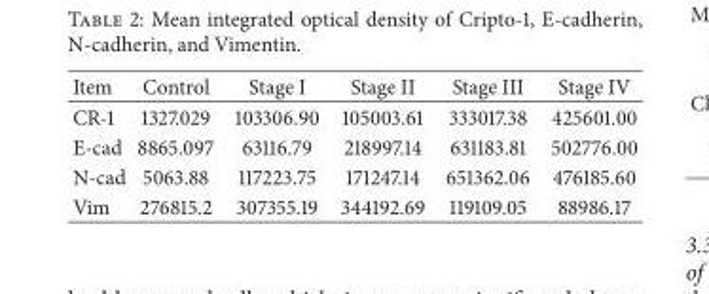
<table><thead><tr><td>Item</td><td>Control</td><td>Stage I</td><td>Stage II</td><td>Stage III</td><td>Stage IV</td></tr></thead><tbody><tr><td>CR-1</td><td>1327.029</td><td>103306.90</td><td>105003.61</td><td>333017.38</td><td>425601.00</td></tr><tr><td>E-cad</td><td>8865.097</td><td>63116.79</td><td>218997.14</td><td>631183.81</td><td>502776.00</td></tr><tr><td>N-cad</td><td>5063.88</td><td>117223.75</td><td>171247.14</td><td>651362.06</td><td>476185.60</td></tr><tr><td>Vim</td><td>276815.2</td><td>307355.19</td><td>344192.69</td><td>119109.05</td><td>88986.17</td></tr></tbody></table>